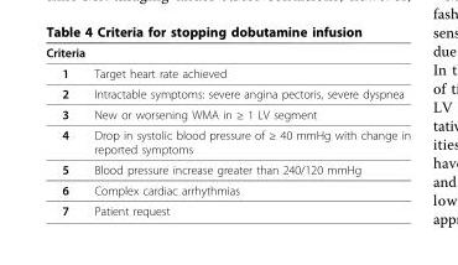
<table><thead><tr><td>Criteria</td><td></td></tr></thead><tbody><tr><td>1</td><td>Target heart rate achieved</td></tr><tr><td>2</td><td>Intractable symptoms: severe angina pectoris, severe dyspnea</td></tr><tr><td>3</td><td>New or worsening WMA in ≥ 1 LV segment</td></tr><tr><td>4</td><td>Drop in systolic blood pressure of ≥ 40 mmHg with change in reported symptoms</td></tr><tr><td>5</td><td>Blood pressure increase greater than 240/120 mmHg</td></tr><tr><td>6</td><td>Complex cardiac arrhythmias</td></tr><tr><td>7</td><td>Patient request</td></tr></tbody></table>